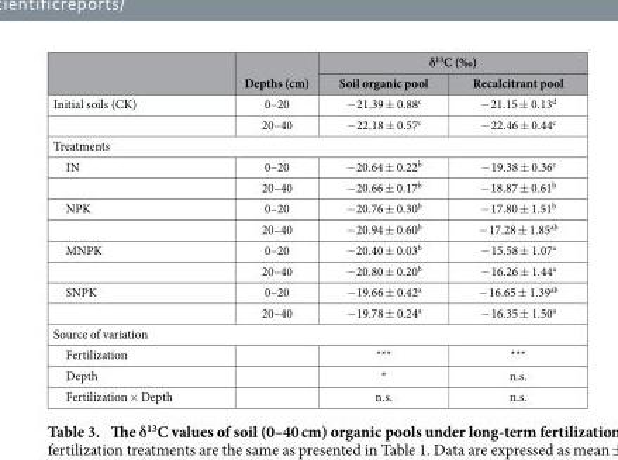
<table><thead><tr><td rowspan="2"></td><td rowspan="2">Depths (cm)</td><td colspan="2">δ<sup>13</sup>C (‰)</td></tr><tr><td>Soil organic pool</td><td>Recalcitrant pool</td></tr></thead><tbody><tr><td rowspan="2">Initial soils (CK)</td><td>0–20</td><td>− 21.39 ± 0.88<sup>c</sup></td><td>− 21.15 ± 0.13<sup>d</sup></td></tr><tr><td>20–40</td><td>− 22.18 ± 0.57<sup>c</sup></td><td>− 22.46 ± 0.44<sup>c</sup></td></tr><tr><td colspan="4">Treatments</td></tr><tr><td rowspan="2">IN</td><td>0–20</td><td>− 20.64 ± 0.22<sup>b</sup></td><td>− 19.38 ± 0.36<sup>c</sup></td></tr><tr><td>20–40</td><td>− 20.66 ± 0.17<sup>b</sup></td><td>− 18.87 ± 0.61<sup>b</sup></td></tr><tr><td rowspan="2">NPK</td><td>0–20</td><td>− 20.76 ± 0.30<sup>b</sup></td><td>− 17.80 ± 1.51<sup>b</sup></td></tr><tr><td>20–40</td><td>− 20.94 ± 0.60<sup>b</sup></td><td>− 17.28 ± 1.85<sup>ab</sup></td></tr><tr><td rowspan="2">MNPK</td><td>0–20</td><td>− 20.40 ± 0.03<sup>b</sup></td><td>− 15.58 ± 1.07<sup>a</sup></td></tr><tr><td>20–40</td><td>− 20.80 ± 0.20<sup>b</sup></td><td>− 16.26 ± 1.44<sup>a</sup></td></tr><tr><td rowspan="2">SNPK</td><td>0–20</td><td>− 19.66 ± 0.42<sup>a</sup></td><td>− 16.65 ± 1.39<sup>ab</sup></td></tr><tr><td>20–40</td><td>− 19.78 ± 0.24<sup>a</sup></td><td>− 16.35 ± 1.50<sup>a</sup></td></tr><tr><td colspan="4">Source of variation</td></tr><tr><td>Fertilization</td><td></td><td>***</td><td>***</td></tr><tr><td>Depth</td><td></td><td>*</td><td>n.s.</td></tr><tr><td>Fertilization × Depth</td><td></td><td>n.s.</td><td>n.s.</td></tr></tbody></table>